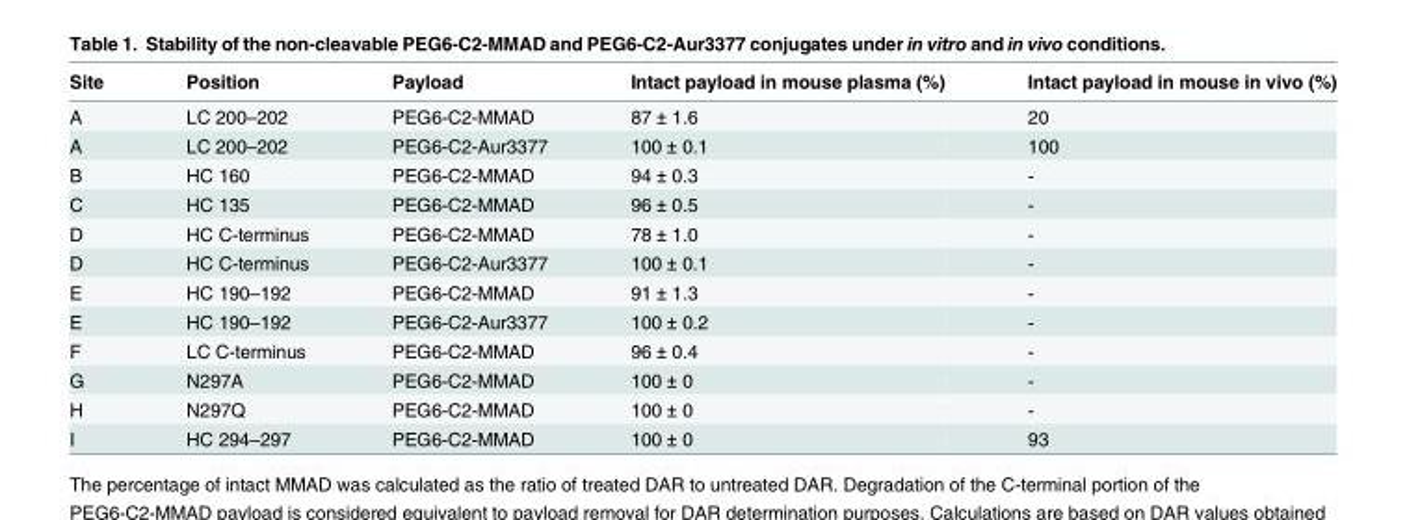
<table><thead><tr><td>Site</td><td>Position</td><td>Payload</td><td>Intact payload in mouse plasma (%)</td><td>Intact payload in mouse in vivo (%)</td></tr></thead><tbody><tr><td>A</td><td>LC 200–202</td><td>PEG6-C2-MMAD</td><td>87 ± 1.6</td><td>20</td></tr><tr><td>A</td><td>LC 200–202</td><td>PEG6-C2-Aur3377</td><td>100 ± 0.1</td><td>100</td></tr><tr><td>B</td><td>HC 160</td><td>PEG6-C2-MMAD</td><td>94 ± 0.3</td><td>-</td></tr><tr><td>C</td><td>HC 135</td><td>PEG6-C2-MMAD</td><td>96 ± 0.5</td><td>-</td></tr><tr><td>D</td><td>HC C-terminus</td><td>PEG6-C2-MMAD</td><td>78 ± 1.0</td><td>-</td></tr><tr><td>D</td><td>HC C-terminus</td><td>PEG6-C2-Aur3377</td><td>100 ± 0.1</td><td>-</td></tr><tr><td>E</td><td>HC 190–192</td><td>PEG6-C2-MMAD</td><td>91 ± 1.3</td><td>-</td></tr><tr><td>E</td><td>HC 190–192</td><td>PEG6-C2-Aur3377</td><td>100 ± 0.2</td><td>-</td></tr><tr><td>F</td><td>LC C-terminus</td><td>PEG6-C2-MMAD</td><td>96 ± 0.4</td><td>-</td></tr><tr><td>G</td><td>N297A</td><td>PEG6-C2-MMAD</td><td>100 ± 0</td><td>-</td></tr><tr><td>H</td><td>N297Q</td><td>PEG6-C2-MMAD</td><td>100 ± 0</td><td>-</td></tr><tr><td>I</td><td>HC 294–297</td><td>PEG6-C2-MMAD</td><td>100 ± 0</td><td>93</td></tr></tbody></table>